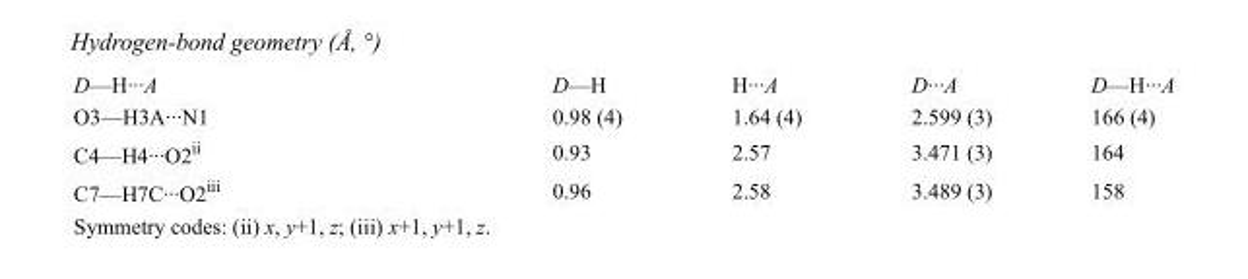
<table><tbody><tr><td>D—H···A</td><td>D—H</td><td>H···A</td><td>D···A</td><td>D—H···A</td></tr><tr><td>O3—H3A···N1</td><td>0.98 (4)</td><td>1.64 (4)</td><td>2.599 (3)</td><td>166 (4)</td></tr><tr><td>C4—H4···O2<sup>ii</sup></td><td>0.93</td><td>2.57</td><td>3.471 (3)</td><td>164</td></tr><tr><td>C7—H7C···O2<sup>iii</sup></td><td>0.96</td><td>2.58</td><td>3.489 (3)</td><td>158</td></tr></tbody></table>